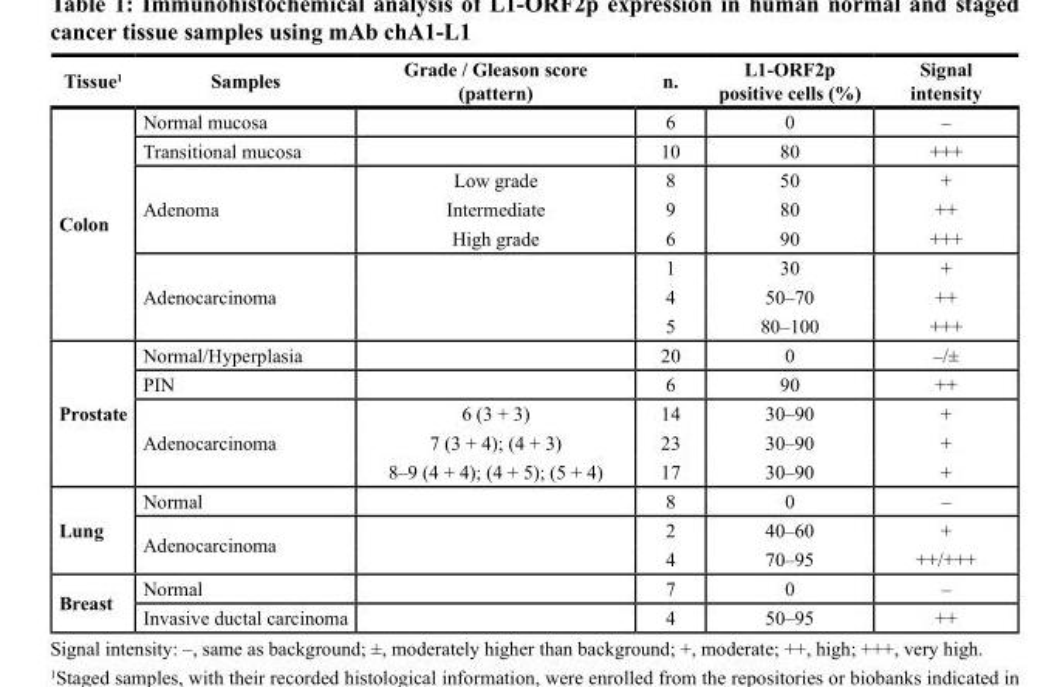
<table><thead><tr><td>tissue<sup>1</sup></td><td>samples</td><td>Grade / Gleason score (pattern)</td><td>n.</td><td>l1-orF2p positive cells (%)</td><td>signal intensity</td></tr></thead><tbody><tr><td rowspan="8">colon</td><td>Normal mucosa</td><td></td><td>6</td><td>0</td><td>–</td></tr><tr><td>Transitional mucosa</td><td></td><td>10</td><td>80</td><td>+++</td></tr><tr><td rowspan="3">Adenoma</td><td>Low grade</td><td>8</td><td>50</td><td>+</td></tr><tr><td>Intermediate</td><td>9</td><td>80</td><td>++</td></tr><tr><td>High grade</td><td>6</td><td>90</td><td>+++</td></tr><tr><td rowspan="3">Adenocarcinoma</td><td rowspan="3"></td><td>1</td><td>30</td><td>+</td></tr><tr><td>4</td><td>50–70</td><td>++</td></tr><tr><td>5</td><td>80–100</td><td>+++</td></tr><tr><td rowspan="5">Prostate</td><td>Normal/Hyperplasia</td><td></td><td>20</td><td>0</td><td>–/±</td></tr><tr><td>PIN</td><td></td><td>6</td><td>90</td><td>++</td></tr><tr><td rowspan="3">Adenocarcinoma</td><td>6 (3 + 3)</td><td>14</td><td>30–90</td><td>+</td></tr><tr><td>7 (3 + 4); (4 + 3)</td><td>23</td><td>30–90</td><td>+</td></tr><tr><td>8–9 (4 + 4); (4 + 5); (5 + 4)</td><td>17</td><td>30–90</td><td>+</td></tr><tr><td rowspan="3">lung</td><td>Normal</td><td></td><td>8</td><td>0</td><td>–</td></tr><tr><td rowspan="2">Adenocarcinoma</td><td rowspan="2"></td><td>2</td><td>40–60</td><td>+</td></tr><tr><td>4</td><td>70–95</td><td>++/+++</td></tr><tr><td rowspan="2">breast</td><td>Normal</td><td></td><td>7</td><td>0</td><td>–</td></tr><tr><td>Invasive ductal carcinoma</td><td></td><td>4</td><td>50–95</td><td>++</td></tr></tbody></table>